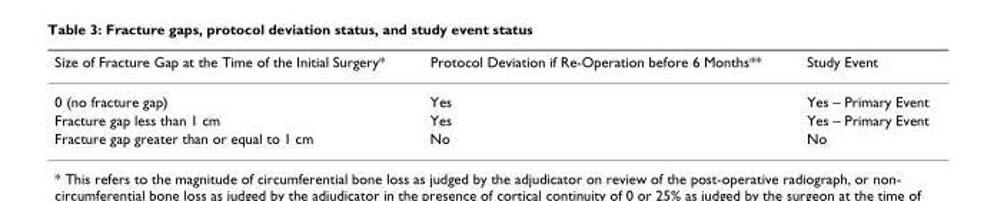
<table><thead><tr><td>Size of Fracture Gap at the Time of the Initial Surgery*</td><td>Protocol Deviation if Re-Operation before 6 Months**</td><td>Study Event</td></tr></thead><tbody><tr><td>0 (no fracture gap)</td><td>Yes</td><td>Yes – Primary Event</td></tr><tr><td>Fracture gap less than 1 cm</td><td>Yes</td><td>Yes – Primary Event</td></tr><tr><td>Fracture gap greater than or equal to 1 cm</td><td>No</td><td>No</td></tr></tbody></table>